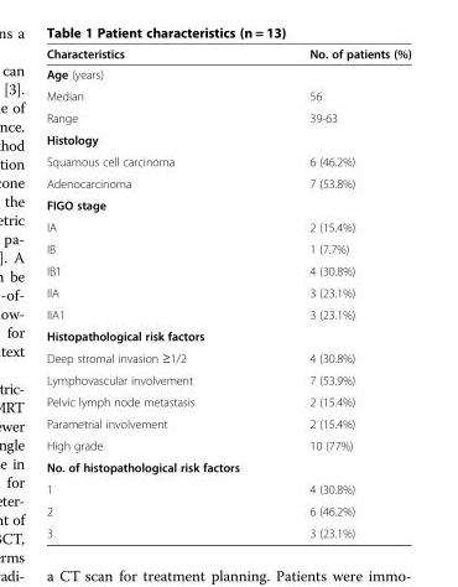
<table><thead><tr><td>Characteristics</td><td>No. of patients (%)</td></tr></thead><tbody><tr><td colspan="2">Age (years)</td></tr><tr><td>Median</td><td>56</td></tr><tr><td>Range</td><td>39-63</td></tr><tr><td colspan="2">Histology</td></tr><tr><td>Squamous cell carcinoma</td><td>6 (46.2%)</td></tr><tr><td>Adenocarcinoma</td><td>7 (53.8%)</td></tr><tr><td colspan="2">FIGO stage</td></tr><tr><td>IA</td><td>2 (15.4%)</td></tr><tr><td>IB</td><td>1 (7.7%)</td></tr><tr><td>IB1</td><td>4 (30.8%)</td></tr><tr><td>IIA</td><td>3 (23.1%)</td></tr><tr><td>IIA1</td><td>3 (23.1%)</td></tr><tr><td colspan="2">Histopathological risk factors</td></tr><tr><td>Deep stromal invasion ≥1/2</td><td>4 (30.8%)</td></tr><tr><td>Lymphovascular involvement</td><td>7 (53.9%)</td></tr><tr><td>Pelvic lymph node metastasis</td><td>2 (15.4%)</td></tr><tr><td>Parametrial involvement</td><td>2 (15.4%)</td></tr><tr><td>High grade</td><td>10 (77%)</td></tr><tr><td colspan="2">No. of histopathological risk factors</td></tr><tr><td>1</td><td>4 (30.8%)</td></tr><tr><td>2</td><td>6 (46.2%)</td></tr><tr><td>3</td><td>3 (23.1%)</td></tr></tbody></table>